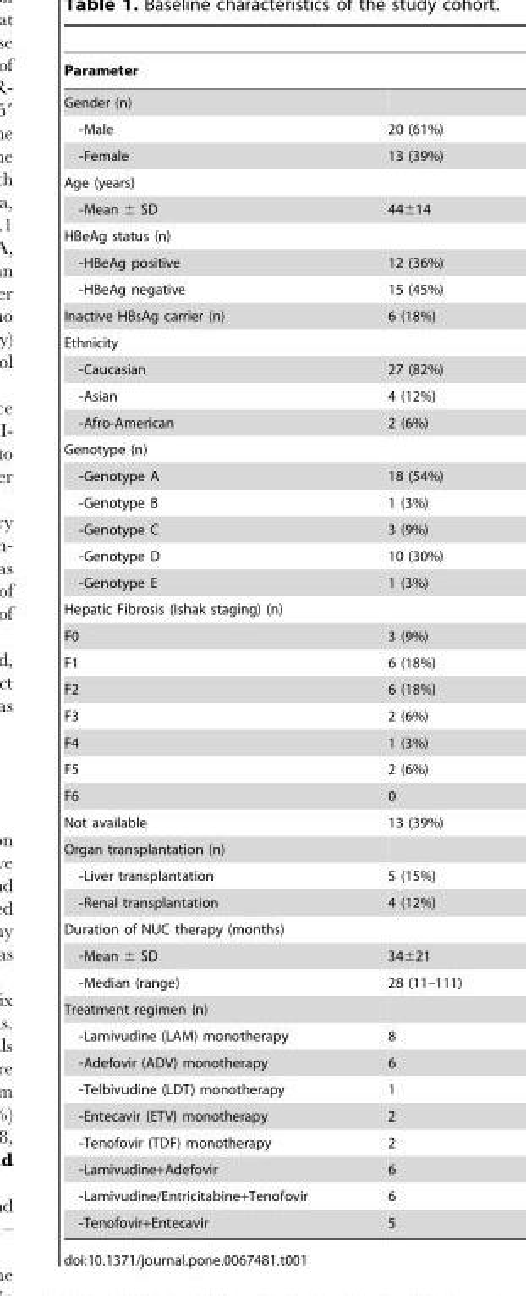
<table><thead><tr><td>Parameter</td><td></td></tr></thead><tbody><tr><td colspan="2">Gender (n)</td></tr><tr><td>-Male</td><td>20 (61%)</td></tr><tr><td>-Female</td><td>13 (39%)</td></tr><tr><td colspan="2">Age (years)</td></tr><tr><td>-Mean ± SD</td><td>44±14</td></tr><tr><td colspan="2">HBeAg status (n)</td></tr><tr><td>-HBeAg positive</td><td>12 (36%)</td></tr><tr><td>-HBeAg negative</td><td>15 (45%)</td></tr><tr><td>Inactive HBsAg carrier (n)</td><td>6 (18%)</td></tr><tr><td colspan="2">Ethnicity</td></tr><tr><td>-Caucasian</td><td>27 (82%)</td></tr><tr><td>-Asian</td><td>4 (12%)</td></tr><tr><td>-Afro-American</td><td>2 (6%)</td></tr><tr><td colspan="2">Genotype (n)</td></tr><tr><td>-Genotype A</td><td>18 (54%)</td></tr><tr><td>-Genotype B</td><td>1 (3%)</td></tr><tr><td>-Genotype C</td><td>3 (9%)</td></tr><tr><td>-Genotype D</td><td>10 (30%)</td></tr><tr><td>-Genotype E</td><td>1 (3%)</td></tr><tr><td colspan="2">Hepatic Fibrosis (Ishak staging) (n)</td></tr><tr><td>F0</td><td>3 (9%)</td></tr><tr><td>F1</td><td>6 (18%)</td></tr><tr><td>F2</td><td>6 (18%)</td></tr><tr><td>F3</td><td>2 (6%)</td></tr><tr><td>F4</td><td>1 (3%)</td></tr><tr><td>F5</td><td>2 (6%)</td></tr><tr><td>F6</td><td>0</td></tr><tr><td>Not available</td><td>13 (39%)</td></tr><tr><td colspan="2">Organ transplantation (n)</td></tr><tr><td>-Liver transplantation</td><td>5 (15%)</td></tr><tr><td>-Renal transplantation</td><td>4 (12%)</td></tr><tr><td colspan="2">Duration of NUC therapy (months)</td></tr><tr><td>-Mean ± SD</td><td>34±21</td></tr><tr><td>-Median (range)</td><td>28 (11–111)</td></tr><tr><td colspan="2">Treatment regimen (n)</td></tr><tr><td>-Lamivudine (LAM) monotherapy</td><td>8</td></tr><tr><td>-Adefovir (ADV) monotherapy</td><td>6</td></tr><tr><td>-Telbivudine (LDT) monotherapy</td><td>1</td></tr><tr><td>-Entecavir (ETV) monotherapy</td><td>2</td></tr><tr><td>-Tenofovir (TDF) monotherapy</td><td>2</td></tr><tr><td>-Lamivudine+Adefovir</td><td>6</td></tr><tr><td>-Lamivudine/Entricitabine+Tenofovir</td><td>6</td></tr><tr><td>-Tenofovir+Entecavir</td><td>5</td></tr></tbody></table>